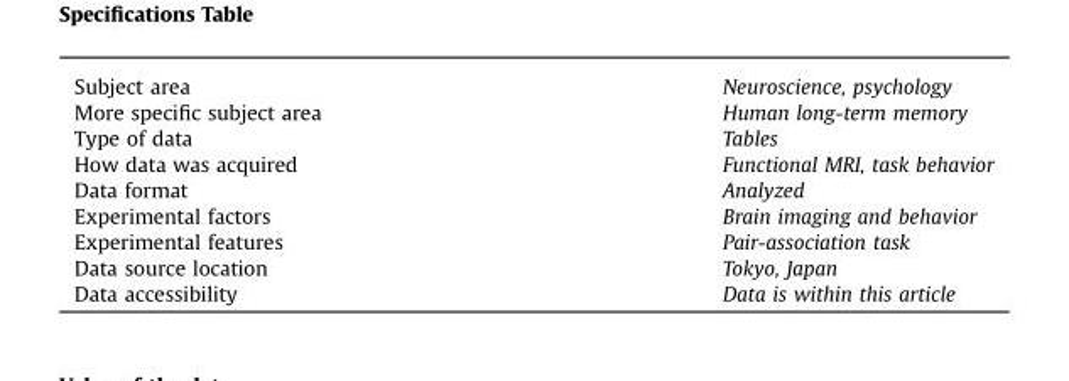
<table><tbody><tr><td>Subject area</td><td>Neuroscience, psychology</td></tr><tr><td>More specific subject area</td><td>Human long-term memory</td></tr><tr><td>Type of data</td><td>Tables</td></tr><tr><td>How data was acquired</td><td>Functional MRI, task behavior</td></tr><tr><td>Data format</td><td>Analyzed</td></tr><tr><td>Experimental factors</td><td>Brain imaging and behavior</td></tr><tr><td>Experimental features</td><td>Pair-association task</td></tr><tr><td>Data source location</td><td>Tokyo, Japan</td></tr><tr><td>Data accessibility</td><td>Data is within this article</td></tr></tbody></table>